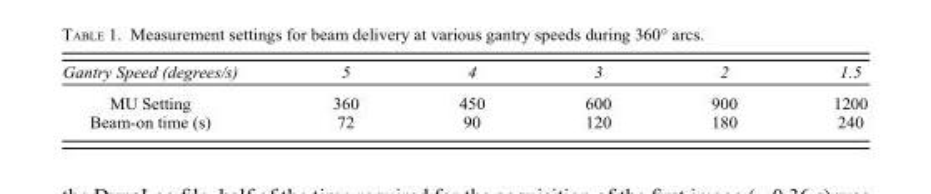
<table><thead><tr><td>Gantry Speed (degrees/s)</td><td>5</td><td>4</td><td>3</td><td>2</td><td>1.5</td></tr></thead><tbody><tr><td>MU Setting</td><td>360</td><td>450</td><td>600</td><td>900</td><td>1200</td></tr><tr><td>Beam-on time (s)</td><td>72</td><td>90</td><td>120</td><td>180</td><td>240</td></tr></tbody></table>